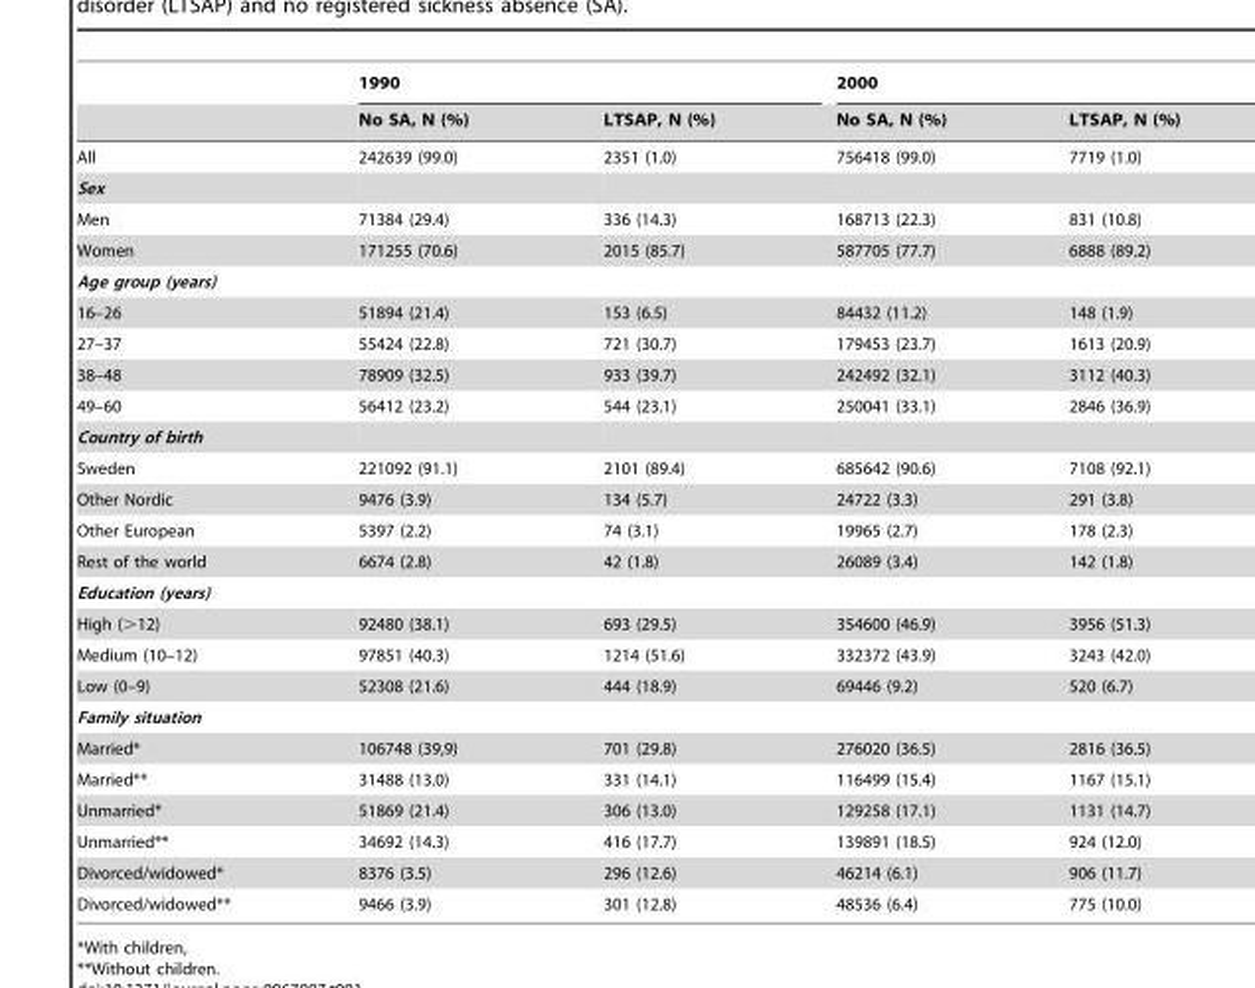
<table><thead><tr><td rowspan="2"></td><td colspan="2">1990</td><td colspan="2">2000</td></tr><tr><td>No SA, N (%)</td><td>LTSAP, N (%)</td><td>No SA, N (%)</td><td>LTSAP, N (%)</td></tr></thead><tbody><tr><td>All</td><td>242639 (99.0)</td><td>2351 (1.0)</td><td>756418 (99.0)</td><td>7719 (1.0)</td></tr><tr><td colspan="5">Sex</td></tr><tr><td>Men</td><td>71384 (29.4)</td><td>336 (14.3)</td><td>168713 (22.3)</td><td>831 (10.8)</td></tr><tr><td>Women</td><td>171255 (70.6)</td><td>2015 (85.7)</td><td>587705 (77.7)</td><td>6888 (89.2)</td></tr><tr><td colspan="5">Age group (years)</td></tr><tr><td>16–26</td><td>51894 (21.4)</td><td>153 (6.5)</td><td>84432 (11.2)</td><td>148 (1.9)</td></tr><tr><td>27–37</td><td>55424 (22.8)</td><td>721 (30.7)</td><td>179453 (23.7)</td><td>1613 (20.9)</td></tr><tr><td>38–48</td><td>78909 (32.5)</td><td>933 (39.7)</td><td>242492 (32.1)</td><td>3112 (40.3)</td></tr><tr><td>49–60</td><td>56412 (23.2)</td><td>544 (23.1)</td><td>250041 (33.1)</td><td>2846 (36.9)</td></tr><tr><td colspan="5">Country of birth</td></tr><tr><td>Sweden</td><td>221092 (91.1)</td><td>2101 (89.4)</td><td>685642 (90.6)</td><td>7108 (92.1)</td></tr><tr><td>Other Nordic</td><td>9476 (3.9)</td><td>134 (5.7)</td><td>24722 (3.3)</td><td>291 (3.8)</td></tr><tr><td>Other European</td><td>5397 (2.2)</td><td>74 (3.1)</td><td>19965 (2.7)</td><td>178 (2.3)</td></tr><tr><td>Rest of the world</td><td>6674 (2.8)</td><td>42 (1.8)</td><td>26089 (3.4)</td><td>142 (1.8)</td></tr><tr><td colspan="5">Education (years)</td></tr><tr><td>High (&gt;12)</td><td>92480 (38.1)</td><td>693 (29.5)</td><td>354600 (46.9)</td><td>3956 (51.3)</td></tr><tr><td>Medium (10–12)</td><td>97851 (40.3)</td><td>1214 (51.6)</td><td>332372 (43.9)</td><td>3243 (42.0)</td></tr><tr><td>Low (0–9)</td><td>52308 (21.6)</td><td>444 (18.9)</td><td>69446 (9.2)</td><td>520 (6.7)</td></tr><tr><td colspan="5">Family situation</td></tr><tr><td>Married*</td><td>106748 (39,9)</td><td>701 (29.8)</td><td>276020 (36.5)</td><td>2816 (36.5)</td></tr><tr><td>Married**</td><td>31488 (13.0)</td><td>331 (14.1)</td><td>116499 (15.4)</td><td>1167 (15.1)</td></tr><tr><td>Unmarried*</td><td>51869 (21.4)</td><td>306 (13.0)</td><td>129258 (17.1)</td><td>1131 (14.7)</td></tr><tr><td>Unmarried**</td><td>34692 (14.3)</td><td>416 (17.7)</td><td>139891 (18.5)</td><td>924 (12.0)</td></tr><tr><td>Divorced/widowed*</td><td>8376 (3.5)</td><td>296 (12.6)</td><td>46214 (6.1)</td><td>906 (11.7)</td></tr><tr><td>Divorced/widowed**</td><td>9466 (3.9)</td><td>301 (12.8)</td><td>48536 (6.4)</td><td>775 (10.0)</td></tr></tbody></table>